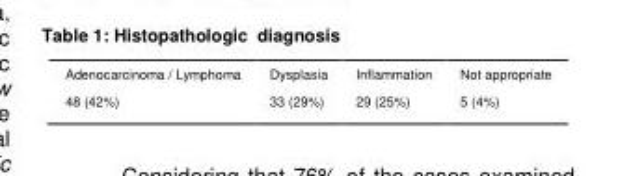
<table><thead><tr><td>Adenocarcinoma / Lymphoma</td><td>Dysplasia</td><td>Inflammation</td><td>Not appropriate</td></tr></thead><tbody><tr><td>48 (42%)</td><td>33 (29%)</td><td>29 (25%)</td><td>5 (4%)</td></tr></tbody></table>